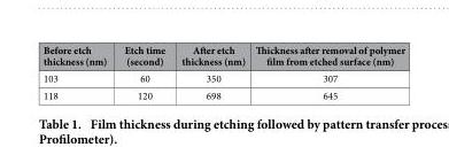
<table><thead><tr><td>Before etch thickness (nm)</td><td>Etch time (second)</td><td>After etch thickness (nm)</td><td>Thickness after removal of polymer film from etched surface (nm)</td></tr></thead><tbody><tr><td>103</td><td>60</td><td>350</td><td>307</td></tr><tr><td>118</td><td>120</td><td>698</td><td>645</td></tr></tbody></table>